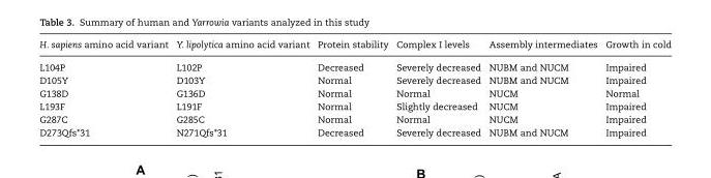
<table><thead><tr><td>H. sapiens amino acid variant</td><td>Y. lipolytica amino acid variant</td><td>Protein stability</td><td>Complex I levels</td><td>Assembly intermediates</td><td>Growth in cold</td></tr></thead><tbody><tr><td>L104P</td><td>L102P</td><td>Decreased</td><td>Severely decreased</td><td>NUBM and NUCM</td><td>Impaired</td></tr><tr><td>D105Y</td><td>D103Y</td><td>Normal</td><td>Severely decreased</td><td>NUBM and NUCM</td><td>Impaired</td></tr><tr><td>G138D</td><td>G136D</td><td>Normal</td><td>Normal</td><td>NUCM</td><td>Normal</td></tr><tr><td>L193F</td><td>L191F</td><td>Normal</td><td>Slightly decreased</td><td>NUCM</td><td>Impaired</td></tr><tr><td>G287C</td><td>G285C</td><td>Normal</td><td>Normal</td><td>NUCM</td><td>Impaired</td></tr><tr><td>D273Qfs*31</td><td>N271Qfs*31</td><td>Decreased</td><td>Severely decreased</td><td>NUBM and NUCM</td><td>Impaired</td></tr></tbody></table>